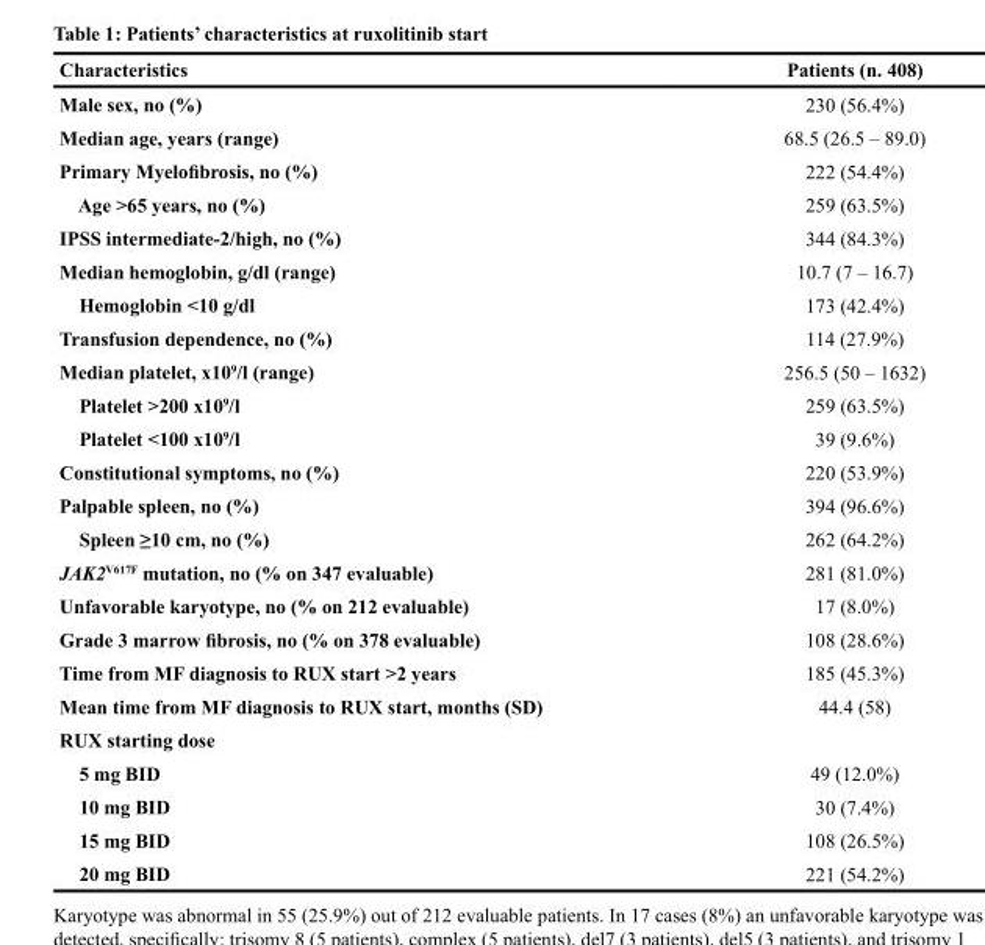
<table><thead><tr><td>Characteristics</td><td>Patients (n. 408)</td></tr></thead><tbody><tr><td>Male sex, no (%)</td><td>230 (56.4%)</td></tr><tr><td>Median age, years (range)</td><td>68.5 (26.5 – 89.0)</td></tr><tr><td>Primary Myelofibrosis, no (%)</td><td>222 (54.4%)</td></tr><tr><td>Age &gt;65 years, no (%)</td><td>259 (63.5%)</td></tr><tr><td>IPSS intermediate-2/high, no (%)</td><td>344 (84.3%)</td></tr><tr><td>Median hemoglobin, g/dl (range)</td><td>10.7 (7 – 16.7)</td></tr><tr><td>Hemoglobin &lt;10 g/dl</td><td>173 (42.4%)</td></tr><tr><td>Transfusion dependence, no (%)</td><td>114 (27.9%)</td></tr><tr><td>Median platelet, x109/l (range)</td><td>256.5 (50 – 1632)</td></tr><tr><td>Platelet &gt;200 x109/l</td><td>259 (63.5%)</td></tr><tr><td>Platelet &lt;100 x109/l</td><td>39 (9.6%)</td></tr><tr><td>Constitutional symptoms, no (%)</td><td>220 (53.9%)</td></tr><tr><td>Palpable spleen, no (%)</td><td>394 (96.6%)</td></tr><tr><td>Spleen ≥10 cm, no (%)</td><td>262 (64.2%)</td></tr><tr><td>JAK2<sup>V617F</sup> mutation, no (% on 347 evaluable)</td><td>281 (81.0%)</td></tr><tr><td>Unfavorable karyotype, no (% on 212 evaluable)</td><td>17 (8.0%)</td></tr><tr><td>Grade 3 marrow fibrosis, no (% on 378 evaluable)</td><td>108 (28.6%)</td></tr><tr><td>Time from MF diagnosis to RUX start &gt;2 years</td><td>185 (45.3%)</td></tr><tr><td>Mean time from MF diagnosis to RUX start, months (SD)</td><td>44.4 (58)</td></tr><tr><td colspan="2">RUX starting dose</td></tr><tr><td>5 mg BID</td><td>49 (12.0%)</td></tr><tr><td>10 mg BID</td><td>30 (7.4%)</td></tr><tr><td>15 mg BID</td><td>108 (26.5%)</td></tr><tr><td>20 mg BID</td><td>221 (54.2%)</td></tr></tbody></table>